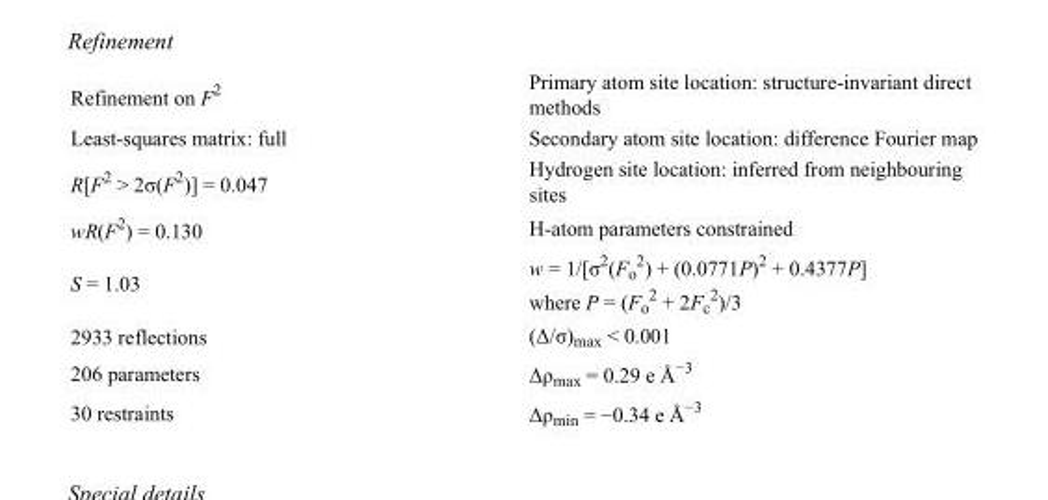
<table><tbody><tr><td>Refinement on F<sup>2</sup></td><td>Primary atom site location: structure-invariant direct methods</td></tr><tr><td>Least-squares matrix: full</td><td>Secondary atom site location: difference Fourier map</td></tr><tr><td>R[F<sup>2</sup> &gt; 2σ(F<sup>2</sup>)] = 0.047</td><td>Hydrogen site location: inferred from neighbouring sites</td></tr><tr><td>wR(F<sup>2</sup>) = 0.130</td><td>H-atom parameters constrained</td></tr><tr><td>S = 1.03</td><td>w = 1/[σ<sup>2</sup>(F<sub>o</sub> <sup>2</sup>) + (0.0771P)<sup>2</sup> + 0.4377P] where P = (F<sub>o</sub> <sup>2</sup> + 2F<sub>c</sub> <sup>2</sup>)/3</td></tr><tr><td>2933 reflections</td><td>(Δ/σ)<sub>max</sub> &lt; 0.001</td></tr><tr><td>206 parameters</td><td>Δρ<sub>max</sub> = 0.29 e Å<sup>−3</sup></td></tr><tr><td>30 restraints</td><td>Δρ<sub>min</sub> = −0.34 e Å<sup>−3</sup></td></tr></tbody></table>